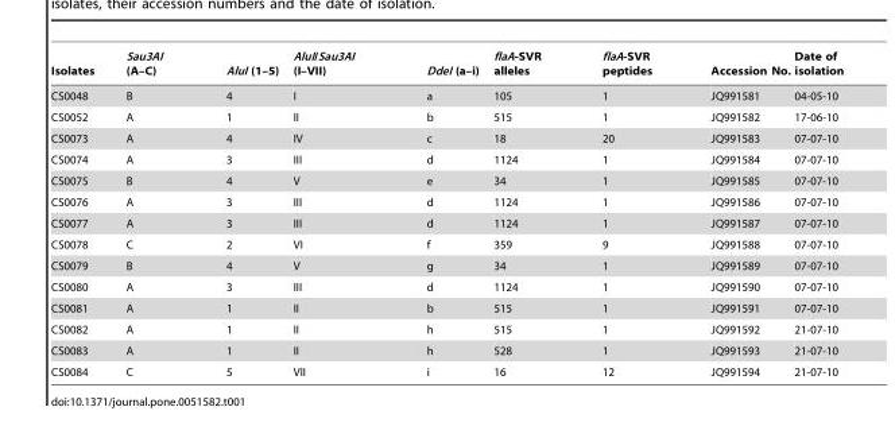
<table><thead><tr><td>Isolates</td><td>Sau3AI (A–C)</td><td>AluI (1–5)</td><td>AluI/Sau3AI (I–VII)</td><td>DdeI (a–i)</td><td>flaA-SVR alleles</td><td>flaA-SVR peptides</td><td>Accession No.</td><td>Date of isolation</td></tr></thead><tbody><tr><td>CS0048</td><td>B</td><td>4</td><td>I</td><td>a</td><td>105</td><td>1</td><td>JQ991581</td><td>04-05-10</td></tr><tr><td>CS0052</td><td>A</td><td>1</td><td>II</td><td>b</td><td>515</td><td>1</td><td>JQ991582</td><td>17-06-10</td></tr><tr><td>CS0073</td><td>A</td><td>4</td><td>IV</td><td>c</td><td>18</td><td>20</td><td>JQ991583</td><td>07-07-10</td></tr><tr><td>CS0074</td><td>A</td><td>3</td><td>III</td><td>d</td><td>1124</td><td>1</td><td>JQ991584</td><td>07-07-10</td></tr><tr><td>CS0075</td><td>B</td><td>4</td><td>V</td><td>e</td><td>34</td><td>1</td><td>JQ991585</td><td>07-07-10</td></tr><tr><td>CS0076</td><td>A</td><td>3</td><td>III</td><td>d</td><td>1124</td><td>1</td><td>JQ991586</td><td>07-07-10</td></tr><tr><td>CS0077</td><td>A</td><td>3</td><td>III</td><td>d</td><td>1124</td><td>1</td><td>JQ991587</td><td>07-07-10</td></tr><tr><td>CS0078</td><td>C</td><td>2</td><td>VI</td><td>f</td><td>359</td><td>9</td><td>JQ991588</td><td>07-07-10</td></tr><tr><td>CS0079</td><td>B</td><td>4</td><td>V</td><td>g</td><td>34</td><td>1</td><td>JQ991589</td><td>07-07-10</td></tr><tr><td>CS0080</td><td>A</td><td>3</td><td>III</td><td>d</td><td>1124</td><td>1</td><td>JQ991590</td><td>07-07-10</td></tr><tr><td>CS0081</td><td>A</td><td>1</td><td>II</td><td>b</td><td>515</td><td>1</td><td>JQ991591</td><td>07-07-10</td></tr><tr><td>CS0082</td><td>A</td><td>1</td><td>II</td><td>h</td><td>515</td><td>1</td><td>JQ991592</td><td>21-07-10</td></tr><tr><td>CS0083</td><td>A</td><td>1</td><td>II</td><td>h</td><td>528</td><td>1</td><td>JQ991593</td><td>21-07-10</td></tr><tr><td>CS0084</td><td>C</td><td>5</td><td>VII</td><td>i</td><td>16</td><td>12</td><td>JQ991594</td><td>21-07-10</td></tr></tbody></table>